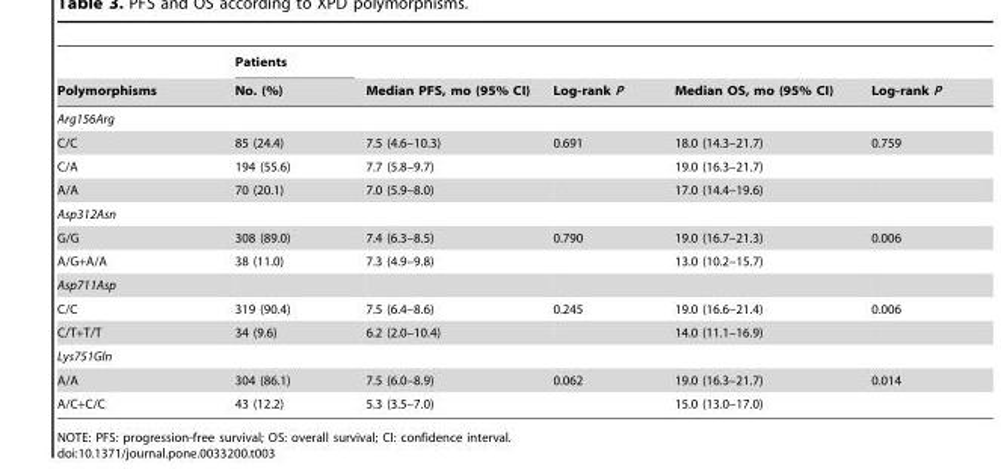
<table><thead><tr><td rowspan="2">Polymorphisms</td><td rowspan="2">Patients No. (%)</td><td rowspan="2">Median PFS, mo (95% CI)</td><td rowspan="2">Log-rank P</td><td rowspan="2">Median OS, mo (95% CI)</td><td rowspan="2">Log-rank P</td></tr><tr></tr></thead><tbody><tr><td colspan="6">Arg156Arg</td></tr><tr><td>C/C</td><td>85 (24.4)</td><td>7.5 (4.6–10.3)</td><td>0.691</td><td>18.0 (14.3–21.7)</td><td>0.759</td></tr><tr><td>C/A</td><td>194 (55.6)</td><td>7.7 (5.8–9.7)</td><td></td><td>19.0 (16.3–21.7)</td><td></td></tr><tr><td>A/A</td><td>70 (20.1)</td><td>7.0 (5.9–8.0)</td><td></td><td>17.0 (14.4–19.6)</td><td></td></tr><tr><td colspan="6">Asp312Asn</td></tr><tr><td>G/G</td><td>308 (89.0)</td><td>7.4 (6.3–8.5)</td><td>0.790</td><td>19.0 (16.7–21.3)</td><td>0.006</td></tr><tr><td>A/G+A/A</td><td>38 (11.0)</td><td>7.3 (4.9–9.8)</td><td></td><td>13.0 (10.2–15.7)</td><td></td></tr><tr><td colspan="6">Asp711Asp</td></tr><tr><td>C/C</td><td>319 (90.4)</td><td>7.5 (6.4–8.6)</td><td>0.245</td><td>19.0 (16.6–21.4)</td><td>0.006</td></tr><tr><td>C/T+T/T</td><td>34 (9.6)</td><td>6.2 (2.0–10.4)</td><td></td><td>14.0 (11.1–16.9)</td><td></td></tr><tr><td colspan="6">Lys751Gln</td></tr><tr><td>A/A</td><td>304 (86.1)</td><td>7.5 (6.0–8.9)</td><td>0.062</td><td>19.0 (16.3–21.7)</td><td>0.014</td></tr><tr><td>A/C+C/C</td><td>43 (12.2)</td><td>5.3 (3.5–7.0)</td><td></td><td>15.0 (13.0–17.0)</td><td></td></tr></tbody></table>